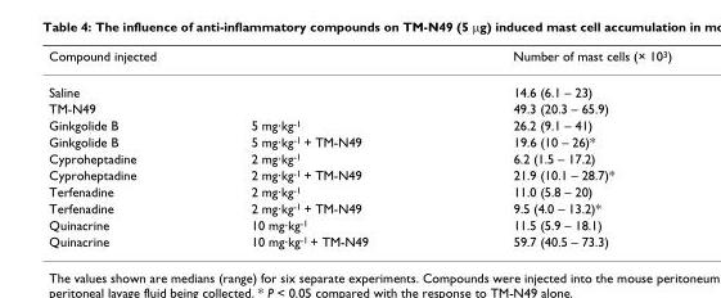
<table><thead><tr><td colspan="2">Compound injected</td><td rowspan="2">Number of mast cells (× 10<sup>3</sup>) 14.6 (6.1 – 23)</td></tr><tr><td>Saline</td><td></td></tr></thead><tbody><tr><td>TM-N49</td><td></td><td>49.3 (20.3 – 65.9)</td></tr><tr><td>Ginkgolide B</td><td>5 mg·kg<sup>-1</sup></td><td>26.2 (9.1 – 41)</td></tr><tr><td>Ginkgolide B</td><td>5 mg·kg<sup>-1</sup> + TM-N49</td><td>19.6 (10 – 26)*</td></tr><tr><td>Cyproheptadine</td><td>2 mg·kg<sup>-1</sup></td><td>6.2 (1.5 – 17.2)</td></tr><tr><td>Cyproheptadine</td><td>2 mg·kg<sup>-1</sup> + TM-N49</td><td>21.9 (10.1 – 28.7)*</td></tr><tr><td>Terfenadine</td><td>2 mg·kg<sup>-1</sup></td><td>11.0 (5.8 – 20)</td></tr><tr><td>Terfenadine</td><td>2 mg·kg<sup>-1</sup> + TM-N49</td><td>9.5 (4.0 – 13.2)*</td></tr><tr><td>Quinacrine</td><td>10 mg·kg<sup>-1</sup></td><td>11.5 (5.9 – 18.1)</td></tr><tr><td>Quinacrine</td><td>10 mg·kg<sup>-1</sup> + TM-N49</td><td>59.7 (40.5 – 73.3)</td></tr></tbody></table>